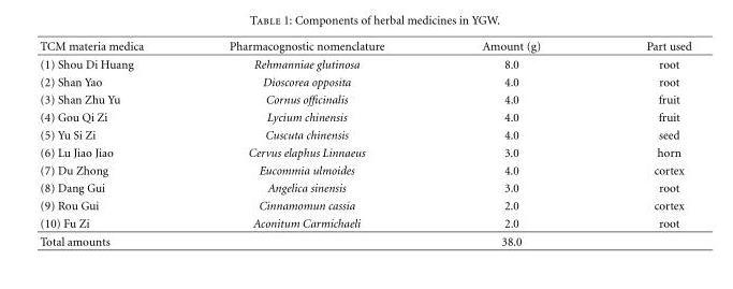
<table><thead><tr><td>TCM materia medica</td><td>Pharmacognostic nomenclature</td><td>Amount (g)</td><td>Part used</td></tr></thead><tbody><tr><td>(1) Shou Di Huang</td><td>Rehmanniae glutinosa</td><td>8.0</td><td>root</td></tr><tr><td>(2) Shan Yao</td><td>Dioscorea opposita</td><td>4.0</td><td>root</td></tr><tr><td>(3) Shan Zhu Yu</td><td>Cornus officinalis</td><td>4.0</td><td>fruit</td></tr><tr><td>(4) Gou Qi Zi</td><td>Lycium chinensis</td><td>4.0</td><td>fruit</td></tr><tr><td>(5) Yu Si Zi</td><td>Cuscuta chinensis</td><td>4.0</td><td>seed</td></tr><tr><td>(6) Lu Jiao Jiao</td><td>Cervus elaphus Linnaeus</td><td>3.0</td><td>horn</td></tr><tr><td>(7) Du Zhong</td><td>Eucommia ulmoides</td><td>4.0</td><td>cortex</td></tr><tr><td>(8) Dang Gui</td><td>Angelica sinensis</td><td>3.0</td><td>root</td></tr><tr><td>(9) Rou Gui</td><td>Cinnamomun cassia</td><td>2.0</td><td>cortex</td></tr><tr><td>(10) Fu Zi</td><td>Aconitum Carmichaeli</td><td>2.0</td><td>root</td></tr><tr><td>Total amounts</td><td></td><td>38.0</td><td></td></tr></tbody></table>